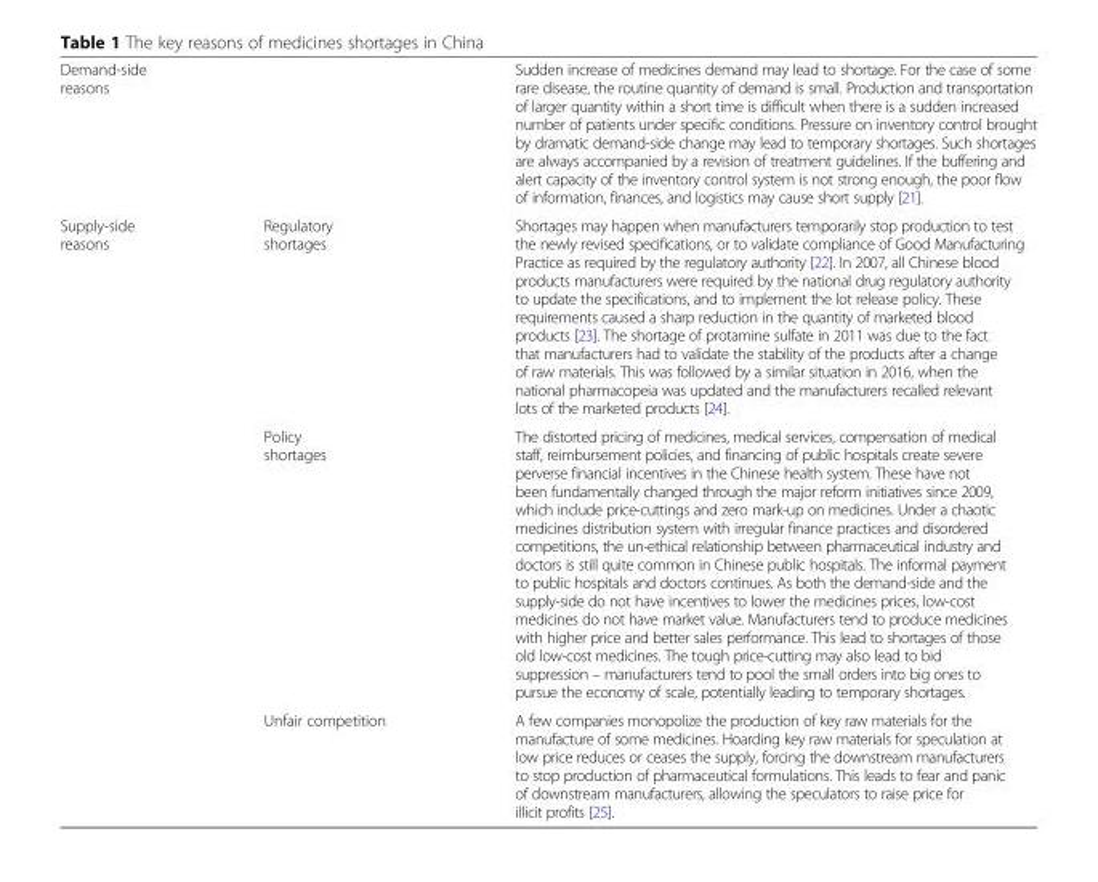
<table><tbody><tr><td colspan="2">Demand-side reasons</td><td>Sudden increase of medicines demand may lead to shortage. For the case of some rare disease, the routine quantity of demand is small. Production and transportation of larger quantity within a short time is difficult when there is a sudden increased number of patients under specific conditions. Pressure on inventory control brought by dramatic demand-side change may lead to temporary shortages. Such shortages are always accompanied by a revision of treatment guidelines. If the buffering and alert capacity of the inventory control system is not strong enough, the poor flow of information, finances, and logistics may cause short supply [21].</td></tr><tr><td rowspan="3">Supply-side reasons</td><td>Regulatory shortages</td><td>Shortages may happen when manufacturers temporarily stop production to test the newly revised specifications, or to validate compliance of Good Manufacturing Practice as required by the regulatory authority [22]. In 2007, all Chinese blood products manufacturers were required by the national drug regulatory authority to update the specifications, and to implement the lot release policy. These requirements caused a sharp reduction in the quantity of marketed blood products [23]. The shortage of protamine sulfate in 2011 was due to the fact that manufacturers had to validate the stability of the products after a change of raw materials. This was followed by a similar situation in 2016, when the national pharmacopeia was updated and the manufacturers recalled relevant lots of the marketed products [24].</td></tr><tr><td>Policy shortages</td><td>The distorted pricing of medicines, medical services, compensation of medical staff, reimbursement policies, and financing of public hospitals create severe perverse financial incentives in the Chinese health system. These have not been fundamentally changed through the major reform initiatives since 2009, which include price-cuttings and zero mark-up on medicines. Under a chaotic medicines distribution system with irregular finance practices and disordered competitions, the un-ethical relationship between pharmaceutical industry and doctors is still quite common in Chinese public hospitals. The informal payment to public hospitals and doctors continues. As both the demand-side and the supply-side do not have incentives to lower the medicines prices, low-cost medicines do not have market value. Manufacturers tend to produce medicines with higher price and better sales performance. This lead to shortages of those old low-cost medicines. The tough price-cutting may also lead to bid suppression – manufacturers tend to pool the small orders into big ones to pursue the economy of scale, potentially leading to temporary shortages.</td></tr><tr><td>Unfair competition</td><td>A few companies monopolize the production of key raw materials for the manufacture of some medicines. Hoarding key raw materials for speculation at low price reduces or ceases the supply, forcing the downstream manufacturers to stop production of pharmaceutical formulations. This leads to fear and panic of downstream manufacturers, allowing the speculators to raise price for illicit profits [25].</td></tr></tbody></table>